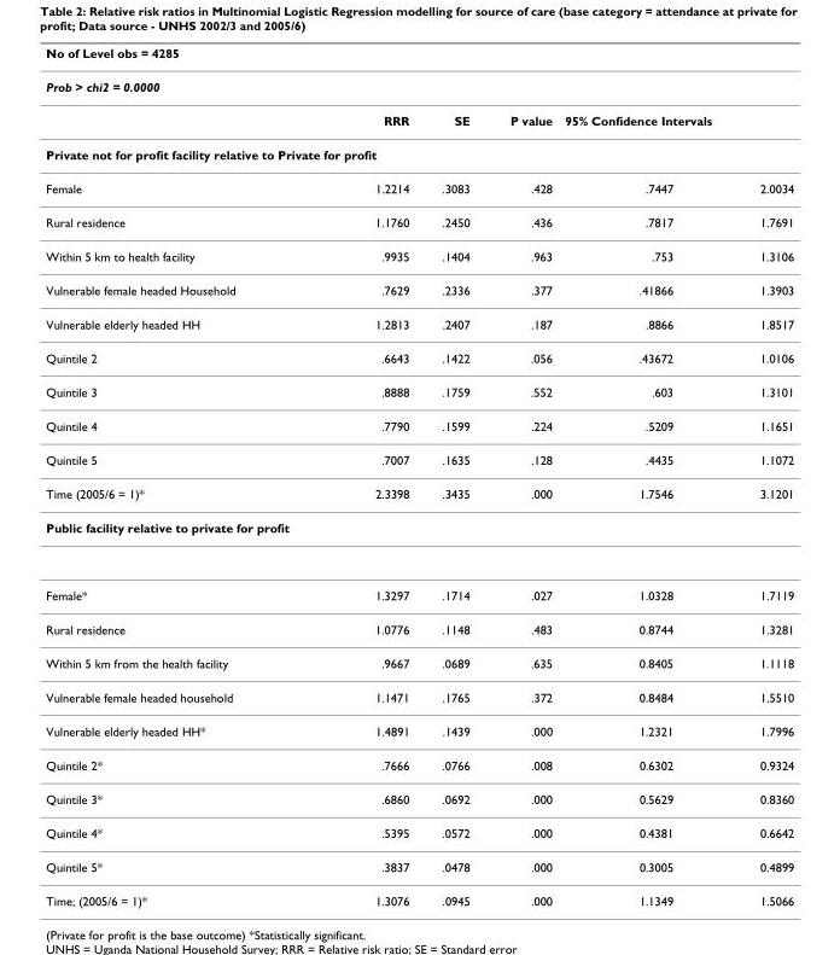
<table><thead><tr><td>No of Level obs = 4285</td><td></td><td></td><td></td><td></td><td></td></tr></thead><tbody><tr><td colspan="6">Prob &gt; chi2 = 0.0000</td></tr><tr><td></td><td>RRR</td><td>SE</td><td>P value</td><td colspan="2">95% Confidence Intervals</td></tr><tr><td colspan="6">Private not for profit facility relative to Private for profit</td></tr><tr><td>Female</td><td>1.2214</td><td>.3083</td><td>.428</td><td>.7447</td><td>2.0034</td></tr><tr><td>Rural residence</td><td>1.1760</td><td>.2450</td><td>.436</td><td>.7817</td><td>1.7691</td></tr><tr><td>Within 5 km to health facility</td><td>.9935</td><td>.1404</td><td>.963</td><td>.753</td><td>1.3106</td></tr><tr><td>Vulnerable female headed Household</td><td>.7629</td><td>.2336</td><td>.377</td><td>.41866</td><td>1.3903</td></tr><tr><td>Vulnerable elderly headed HH</td><td>1.2813</td><td>.2407</td><td>.187</td><td>.8866</td><td>1.8517</td></tr><tr><td>Quintile 2</td><td>.6643</td><td>.1422</td><td>.056</td><td>.43672</td><td>1.0106</td></tr><tr><td>Quintile 3</td><td>.8888</td><td>.1759</td><td>.552</td><td>.603</td><td>1.3101</td></tr><tr><td>Quintile 4</td><td>.7790</td><td>.1599</td><td>.224</td><td>.5209</td><td>1.1651</td></tr><tr><td>Quintile 5</td><td>.7007</td><td>.1635</td><td>.128</td><td>.4435</td><td>1.1072</td></tr><tr><td>Time (2005/6 = 1)*</td><td>2.3398</td><td>.3435</td><td>.000</td><td>1.7546</td><td>3.1201</td></tr><tr><td colspan="6">Public facility relative to private for profit</td></tr><tr><td>Female*</td><td>1.3297</td><td>.1714</td><td>.027</td><td>1.0328</td><td>1.7119</td></tr><tr><td>Rural residence</td><td>1.0776</td><td>.1148</td><td>.483</td><td>0.8744</td><td>1.3281</td></tr><tr><td>Within 5 km from the health facility</td><td>.9667</td><td>.0689</td><td>.635</td><td>0.8405</td><td>1.1118</td></tr><tr><td>Vulnerable female headed household</td><td>1.1471</td><td>.1765</td><td>.372</td><td>0.8484</td><td>1.5510</td></tr><tr><td>Vulnerable elderly headed HH*</td><td>1.4891</td><td>.1439</td><td>.000</td><td>1.2321</td><td>1.7996</td></tr><tr><td>Quintile 2*</td><td>.7666</td><td>.0766</td><td>.008</td><td>0.6302</td><td>0.9324</td></tr><tr><td>Quintile 3*</td><td>.6860</td><td>.0692</td><td>.000</td><td>0.5629</td><td>0.8360</td></tr><tr><td>Quintile 4*</td><td>.5395</td><td>.0572</td><td>.000</td><td>0.4381</td><td>0.6642</td></tr><tr><td>Quintile 5*</td><td>.3837</td><td>.0478</td><td>.000</td><td>0.3005</td><td>0.4899</td></tr><tr><td>Time; (2005/6 = 1)*</td><td>1.3076</td><td>.0945</td><td>.000</td><td>1.1349</td><td>1.5066</td></tr></tbody></table>